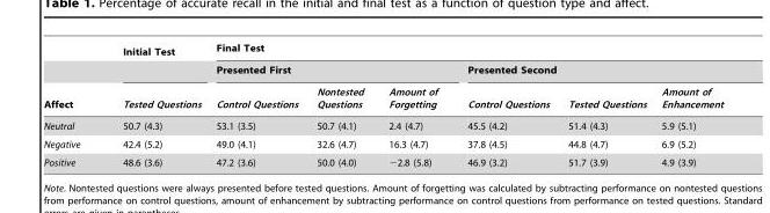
<table><thead><tr><td rowspan="3">Affect</td><td rowspan="3">Initial Test Tested Questions</td><td colspan="6">Final Test</td></tr><tr><td colspan="3">Presented First</td><td colspan="3">Presented Second</td></tr><tr><td>Control Questions</td><td>Nontested Questions</td><td>Amount of Forgetting</td><td>Control Questions</td><td>Tested Questions</td><td>Amount of Enhancement</td></tr></thead><tbody><tr><td>Neutral</td><td>50.7 (4.3)</td><td>53.1 (3.5)</td><td>50.7 (4.1)</td><td>2.4 (4.7)</td><td>45.5 (4.2)</td><td>51.4 (4.3)</td><td>5.9 (5.1)</td></tr><tr><td>Negative</td><td>42.4 (5.2)</td><td>49.0 (4.1)</td><td>32.6 (4.7)</td><td>16.3 (4.7)</td><td>37.8 (4.5)</td><td>44.8 (4.7)</td><td>6.9 (5.2)</td></tr><tr><td>Positive</td><td>48.6 (3.6)</td><td>47.2 (3.6)</td><td>50.0 (4.0)</td><td>−2.8 (5.8)</td><td>46.9 (3.2)</td><td>51.7 (3.9)</td><td>4.9 (3.9)</td></tr></tbody></table>